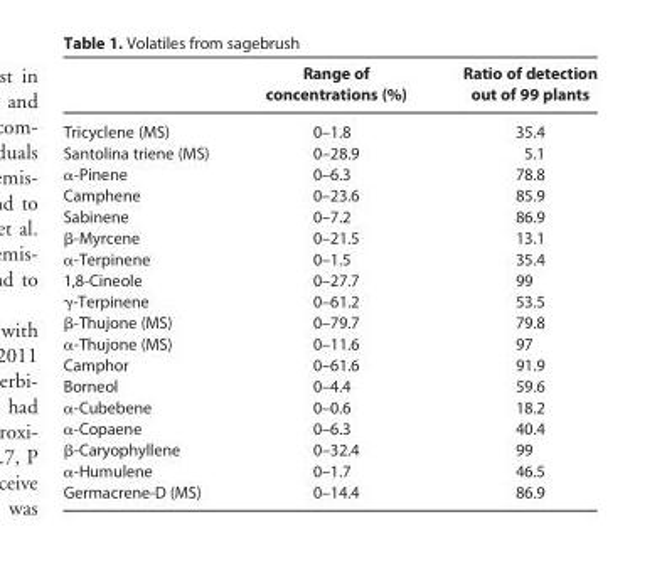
<table><thead><tr><td></td><td>Range of concentrations (%)</td><td>Ratio of detection out of 99 plants</td></tr></thead><tbody><tr><td>Tricyclene (MS)</td><td>0–1.8</td><td>35.4</td></tr><tr><td>Santolina triene (MS)</td><td>0–28.9</td><td>5.1</td></tr><tr><td>α-Pinene</td><td>0–6.3</td><td>78.8</td></tr><tr><td>Camphene</td><td>0–23.6</td><td>85.9</td></tr><tr><td>Sabinene</td><td>0–7.2</td><td>86.9</td></tr><tr><td>β-Myrcene</td><td>0–21.5</td><td>13.1</td></tr><tr><td>α-Terpinene</td><td>0–1.5</td><td>35.4</td></tr><tr><td>1,8-Cineole</td><td>0–27.7</td><td>99</td></tr><tr><td>γ-Terpinene</td><td>0–61.2</td><td>53.5</td></tr><tr><td>β-Thujone (MS)</td><td>0–79.7</td><td>79.8</td></tr><tr><td>α-Thujone (MS)</td><td>0–11.6</td><td>97</td></tr><tr><td>Camphor</td><td>0–61.6</td><td>91.9</td></tr><tr><td>Borneol</td><td>0–4.4</td><td>59.6</td></tr><tr><td>α-Cubebene</td><td>0–0.6</td><td>18.2</td></tr><tr><td>α-Copaene</td><td>0–6.3</td><td>40.4</td></tr><tr><td>β-Caryophyllene</td><td>0–32.4</td><td>99</td></tr><tr><td>α-Humulene</td><td>0–1.7</td><td>46.5</td></tr><tr><td>Germacrene-D (MS)</td><td>0–14.4</td><td>86.9</td></tr></tbody></table>